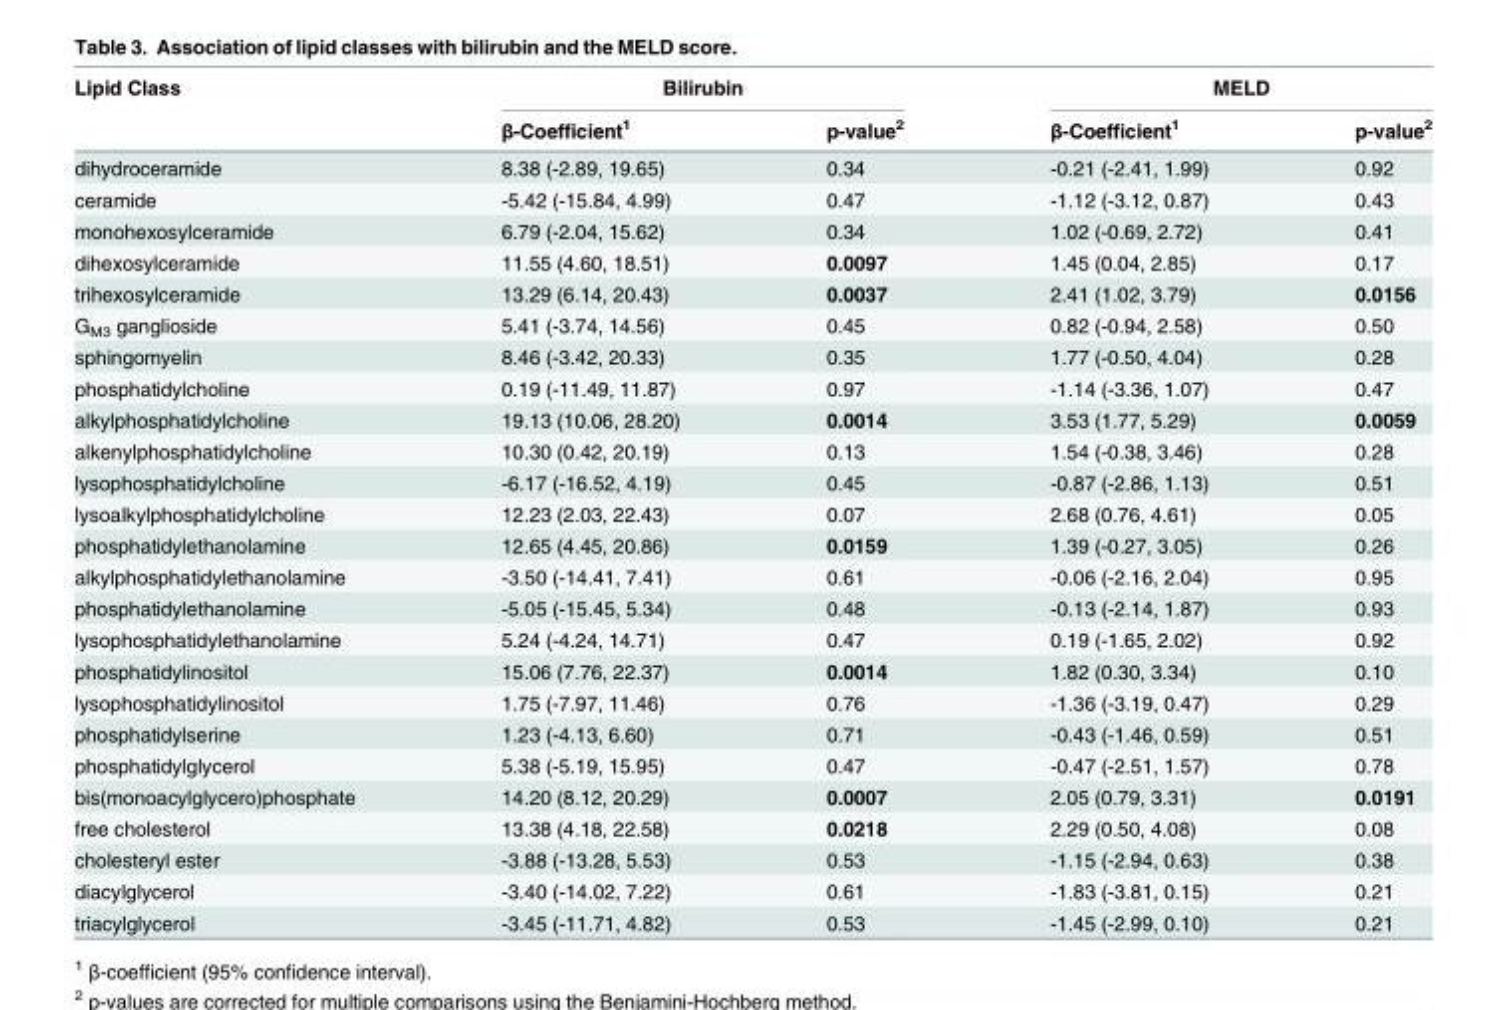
<table><thead><tr><td rowspan="2">Lipid Class</td><td colspan="2">Bilirubin</td><td colspan="2">MELD</td></tr><tr><td>β-Coefficient<sup>1</sup></td><td>p-value<sup>2</sup></td><td>β-Coefficient<sup>1</sup></td><td>p-value<sup>2</sup></td></tr></thead><tbody><tr><td>dihydroceramide</td><td>8.38 (-2.89, 19.65)</td><td>0.34</td><td>-0.21 (-2.41, 1.99)</td><td>0.92</td></tr><tr><td>ceramide</td><td>-5.42 (-15.84, 4.99)</td><td>0.47</td><td>-1.12 (-3.12, 0.87)</td><td>0.43</td></tr><tr><td>monohexosylceramide</td><td>6.79 (-2.04, 15.62)</td><td>0.34</td><td>1.02 (-0.69, 2.72)</td><td>0.41</td></tr><tr><td>dihexosylceramide</td><td>11.55 (4.60, 18.51)</td><td>0.0097</td><td>1.45 (0.04, 2.85)</td><td>0.17</td></tr><tr><td>trihexosylceramide</td><td>13.29 (6.14, 20.43)</td><td>0.0037</td><td>2.41 (1.02, 3.79)</td><td>0.0156</td></tr><tr><td>G<sub>M3</sub> ganglioside</td><td>5.41 (-3.74, 14.56)</td><td>0.45</td><td>0.82 (-0.94, 2.58)</td><td>0.50</td></tr><tr><td>sphingomyelin</td><td>8.46 (-3.42, 20.33)</td><td>0.35</td><td>1.77 (-0.50, 4.04)</td><td>0.28</td></tr><tr><td>phosphatidylcholine</td><td>0.19 (-11.49, 11.87)</td><td>0.97</td><td>-1.14 (-3.36, 1.07)</td><td>0.47</td></tr><tr><td>alkylphosphatidylcholine</td><td>19.13 (10.06, 28.20)</td><td>0.0014</td><td>3.53 (1.77, 5.29)</td><td>0.0059</td></tr><tr><td>alkenylphosphatidylcholine</td><td>10.30 (0.42, 20.19)</td><td>0.13</td><td>1.54 (-0.38, 3.46)</td><td>0.28</td></tr><tr><td>lysophosphatidylcholine</td><td>-6.17 (-16.52, 4.19)</td><td>0.45</td><td>-0.87 (-2.86, 1.13)</td><td>0.51</td></tr><tr><td>lysoalkylphosphatidylcholine</td><td>12.23 (2.03, 22.43)</td><td>0.07</td><td>2.68 (0.76, 4.61)</td><td>0.05</td></tr><tr><td>phosphatidylethanolamine</td><td>12.65 (4.45, 20.86)</td><td>0.0159</td><td>1.39 (-0.27, 3.05)</td><td>0.26</td></tr><tr><td>alkylphosphatidylethanolamine</td><td>-3.50 (-14.41, 7.41)</td><td>0.61</td><td>-0.06 (-2.16, 2.04)</td><td>0.95</td></tr><tr><td>phosphatidylethanolamine</td><td>-5.05 (-15.45, 5.34)</td><td>0.48</td><td>-0.13 (-2.14, 1.87)</td><td>0.93</td></tr><tr><td>lysophosphatidylethanolamine</td><td>5.24 (-4.24, 14.71)</td><td>0.47</td><td>0.19 (-1.65, 2.02)</td><td>0.92</td></tr><tr><td>phosphatidylinositol</td><td>15.06 (7.76, 22.37)</td><td>0.0014</td><td>1.82 (0.30, 3.34)</td><td>0.10</td></tr><tr><td>lysophosphatidylinositol</td><td>1.75 (-7.97, 11.46)</td><td>0.76</td><td>-1.36 (-3.19, 0.47)</td><td>0.29</td></tr><tr><td>phosphatidylserine</td><td>1.23 (-4.13, 6.60)</td><td>0.71</td><td>-0.43 (-1.46, 0.59)</td><td>0.51</td></tr><tr><td>phosphatidylglycerol</td><td>5.38 (-5.19, 15.95)</td><td>0.47</td><td>-0.47 (-2.51, 1.57)</td><td>0.78</td></tr><tr><td>bis(monoacylglycero)phosphate</td><td>14.20 (8.12, 20.29)</td><td>0.0007</td><td>2.05 (0.79, 3.31)</td><td>0.0191</td></tr><tr><td>free cholesterol</td><td>13.38 (4.18, 22.58)</td><td>0.0218</td><td>2.29 (0.50, 4.08)</td><td>0.08</td></tr><tr><td>cholesteryl ester</td><td>-3.88 (-13.28, 5.53)</td><td>0.53</td><td>-1.15 (-2.94, 0.63)</td><td>0.38</td></tr><tr><td>diacylglycerol</td><td>-3.40 (-14.02, 7.22)</td><td>0.61</td><td>-1.83 (-3.81, 0.15)</td><td>0.21</td></tr><tr><td>triacylglycerol</td><td>-3.45 (-11.71, 4.82)</td><td>0.53</td><td>-1.45 (-2.99, 0.10)</td><td>0.21</td></tr></tbody></table>